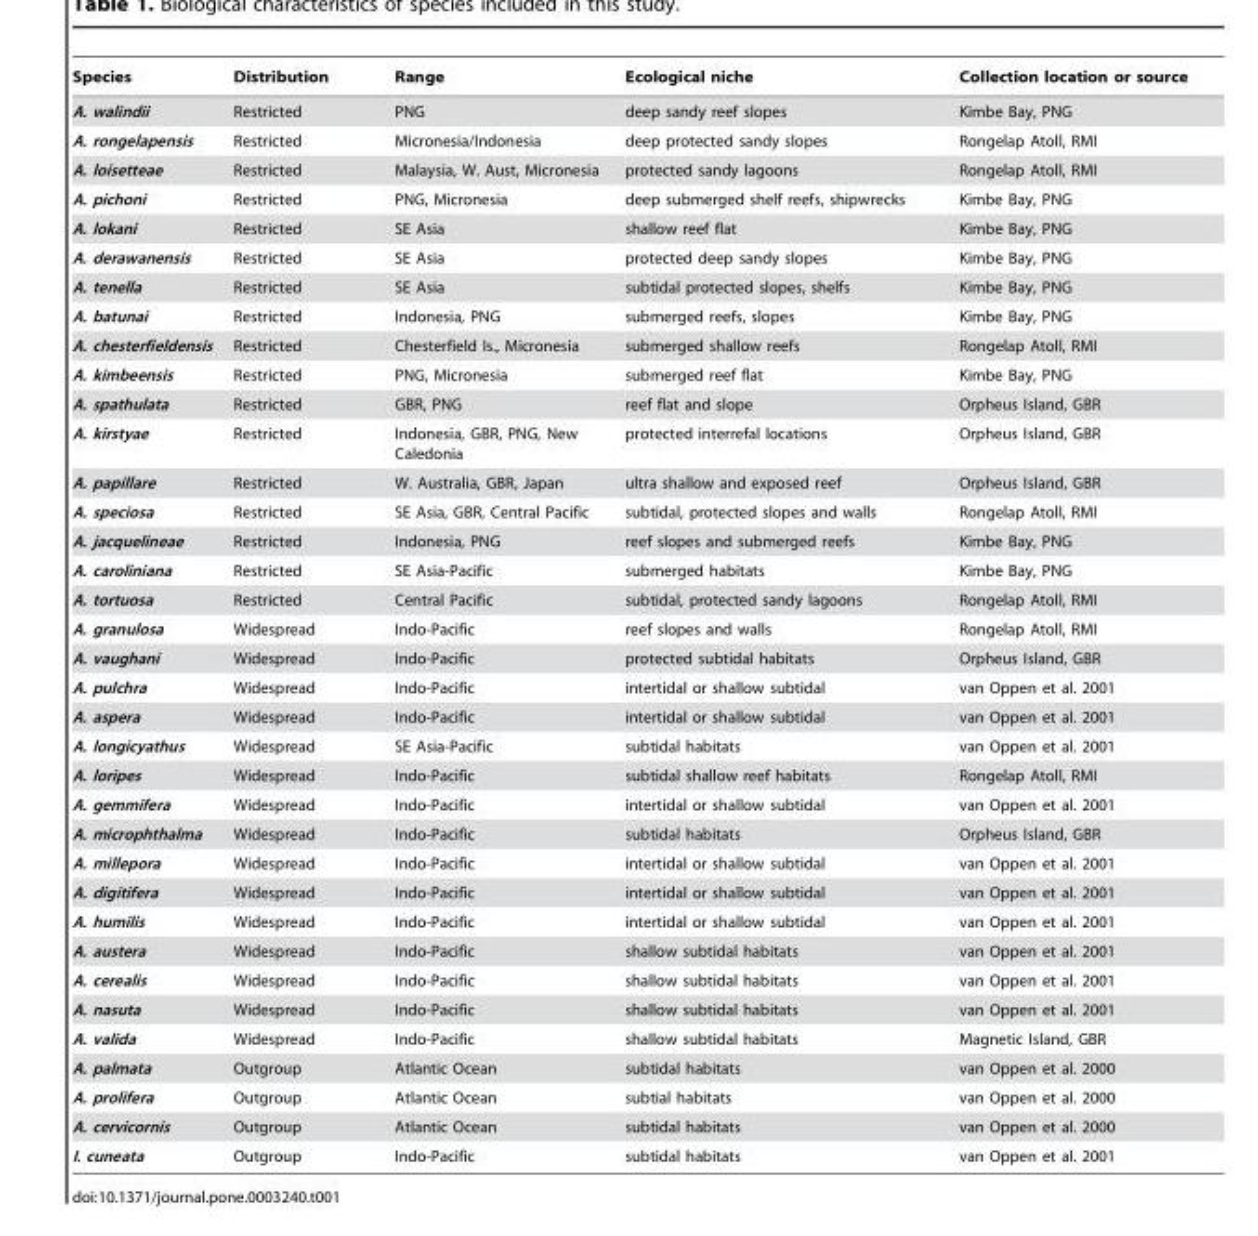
<table><thead><tr><td>Species</td><td>Distribution</td><td>Range</td><td>Ecological niche</td><td>Collection location or source</td></tr></thead><tbody><tr><td>A. walindii</td><td>Restricted</td><td>PNG</td><td>deep sandy reef slopes</td><td>Kimbe Bay, PNG</td></tr><tr><td>A. rongelapensis</td><td>Restricted</td><td>Micronesia/Indonesia</td><td>deep protected sandy slopes</td><td>Rongelap Atoll, RMI</td></tr><tr><td>A. loisetteae</td><td>Restricted</td><td>Malaysia, W. Aust, Micronesia</td><td>protected sandy lagoons</td><td>Rongelap Atoll, RMI</td></tr><tr><td>A. pichoni</td><td>Restricted</td><td>PNG, Micronesia</td><td>deep submerged shelf reefs, shipwrecks</td><td>Kimbe Bay, PNG</td></tr><tr><td>A. lokani</td><td>Restricted</td><td>SE Asia</td><td>shallow reef flat</td><td>Kimbe Bay, PNG</td></tr><tr><td>A. derawanensis</td><td>Restricted</td><td>SE Asia</td><td>protected deep sandy slopes</td><td>Kimbe Bay, PNG</td></tr><tr><td>A. tenella</td><td>Restricted</td><td>SE Asia</td><td>subtidal protected slopes, shelfs</td><td>Kimbe Bay, PNG</td></tr><tr><td>A. batunai</td><td>Restricted</td><td>Indonesia, PNG</td><td>submerged reefs, slopes</td><td>Kimbe Bay, PNG</td></tr><tr><td>A. chesterfieldensis</td><td>Restricted</td><td>Chesterfield Is., Micronesia</td><td>submerged shallow reefs</td><td>Rongelap Atoll, RMI</td></tr><tr><td>A. kimbeensis</td><td>Restricted</td><td>PNG, Micronesia</td><td>submerged reef flat</td><td>Kimbe Bay, PNG</td></tr><tr><td>A. spathulata</td><td>Restricted</td><td>GBR, PNG</td><td>reef flat and slope</td><td>Orpheus Island, GBR</td></tr><tr><td>A. kirstyae</td><td>Restricted</td><td>Indonesia, GBR, PNG, New Caledonia</td><td>protected interrefal locations</td><td>Orpheus Island, GBR</td></tr><tr><td>A. papillare</td><td>Restricted</td><td>W. Australia, GBR, Japan</td><td>ultra shallow and exposed reef</td><td>Orpheus Island, GBR</td></tr><tr><td>A. speciosa</td><td>Restricted</td><td>SE Asia, GBR, Central Pacific</td><td>subtidal, protected slopes and walls</td><td>Rongelap Atoll, RMI</td></tr><tr><td>A. jacquelineae</td><td>Restricted</td><td>Indonesia, PNG</td><td>reef slopes and submerged reefs</td><td>Kimbe Bay, PNG</td></tr><tr><td>A. caroliniana</td><td>Restricted</td><td>SE Asia-Pacific</td><td>submerged habitats</td><td>Kimbe Bay, PNG</td></tr><tr><td>A. tortuosa</td><td>Restricted</td><td>Central Pacific</td><td>subtidal, protected sandy lagoons</td><td>Rongelap Atoll, RMI</td></tr><tr><td>A. granulosa</td><td>Widespread</td><td>Indo-Pacific</td><td>reef slopes and walls</td><td>Rongelap Atoll, RMI</td></tr><tr><td>A. vaughani</td><td>Widespread</td><td>Indo-Pacific</td><td>protected subtidal habitats</td><td>Orpheus Island, GBR</td></tr><tr><td>A. pulchra</td><td>Widespread</td><td>Indo-Pacific</td><td>intertidal or shallow subtidal</td><td>van Oppen et al. 2001</td></tr><tr><td>A. aspera</td><td>Widespread</td><td>Indo-Pacific</td><td>intertidal or shallow subtidal</td><td>van Oppen et al. 2001</td></tr><tr><td>A. longicyathus</td><td>Widespread</td><td>SE Asia-Pacific</td><td>subtidal habitats</td><td>van Oppen et al. 2001</td></tr><tr><td>A. loripes</td><td>Widespread</td><td>Indo-Pacific</td><td>subtidal shallow reef habitats</td><td>Rongelap Atoll, RMI</td></tr><tr><td>A. gemmifera</td><td>Widespread</td><td>Indo-Pacific</td><td>intertidal or shallow subtidal</td><td>van Oppen et al. 2001</td></tr><tr><td>A. microphthalma</td><td>Widespread</td><td>Indo-Pacific</td><td>subtidal habitats</td><td>Orpheus Island, GBR</td></tr><tr><td>A. millepora</td><td>Widespread</td><td>Indo-Pacific</td><td>intertidal or shallow subtidal</td><td>van Oppen et al. 2001</td></tr><tr><td>A. digitifera</td><td>Widespread</td><td>Indo-Pacific</td><td>intertidal or shallow subtidal</td><td>van Oppen et al. 2001</td></tr><tr><td>A. humilis</td><td>Widespread</td><td>Indo-Pacific</td><td>intertidal or shallow subtidal</td><td>van Oppen et al. 2001</td></tr><tr><td>A. austera</td><td>Widespread</td><td>Indo-Pacific</td><td>shallow subtidal habitats</td><td>van Oppen et al. 2001</td></tr><tr><td>A. cerealis</td><td>Widespread</td><td>Indo-Pacific</td><td>shallow subtidal habitats</td><td>van Oppen et al. 2001</td></tr><tr><td>A. nasuta</td><td>Widespread</td><td>Indo-Pacific</td><td>shallow subtidal habitats</td><td>van Oppen et al. 2001</td></tr><tr><td>A. valida</td><td>Widespread</td><td>Indo-Pacific</td><td>shallow subtidal habitats</td><td>Magnetic Island, GBR</td></tr><tr><td>A. palmata</td><td>Outgroup</td><td>Atlantic Ocean</td><td>subtidal habitats</td><td>van Oppen et al. 2000</td></tr><tr><td>A. prolifera</td><td>Outgroup</td><td>Atlantic Ocean</td><td>subtial habitats</td><td>van Oppen et al. 2000</td></tr><tr><td>A. cervicornis</td><td>Outgroup</td><td>Atlantic Ocean</td><td>subtidal habitats</td><td>van Oppen et al. 2000</td></tr><tr><td>I. cuneata</td><td>Outgroup</td><td>Indo-Pacific</td><td>subtidal habitats</td><td>van Oppen et al. 2001</td></tr></tbody></table>